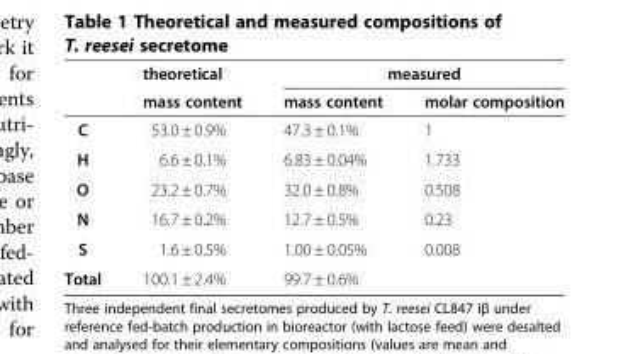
<table><thead><tr><td rowspan="2"></td><td rowspan="2">theoretical mass content</td><td colspan="2">measured</td></tr><tr><td>mass content</td><td>molar composition</td></tr></thead><tbody><tr><td>C</td><td>53.0 ± 0.9%</td><td>47.3 ± 0.1%</td><td>1</td></tr><tr><td>H</td><td>6.6 ± 0.1%</td><td>6.83 ± 0.04%</td><td>1.733</td></tr><tr><td>O</td><td>23.2 ± 0.7%</td><td>32.0 ± 0.8%</td><td>0.508</td></tr><tr><td>N</td><td>16.7 ± 0.2%</td><td>12.7 ± 0.5%</td><td>0.23</td></tr><tr><td>S</td><td>1.6 ± 0.5%</td><td>1.00 ± 0.05%</td><td>0.008</td></tr><tr><td>Total</td><td>100.1 ± 2.4%</td><td>99.7 ± 0.6%</td><td></td></tr></tbody></table>